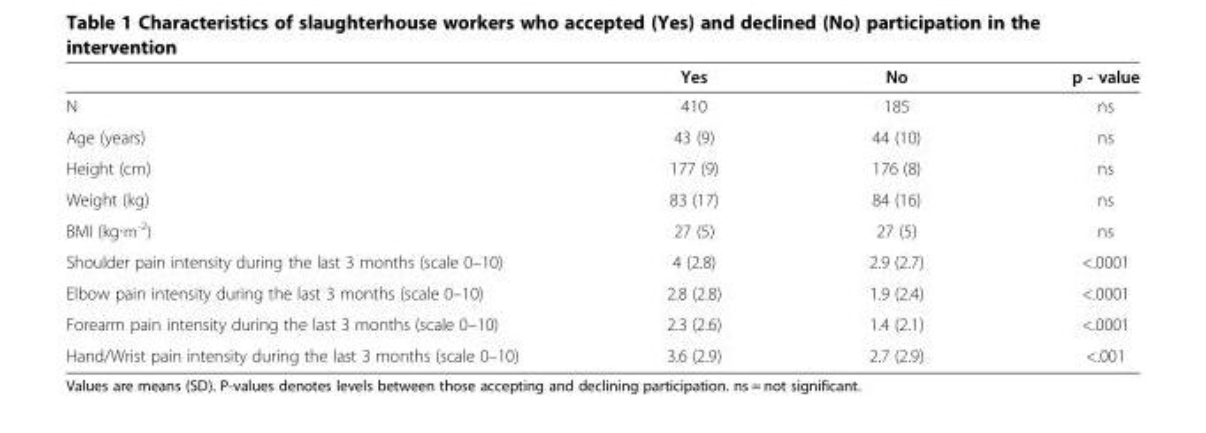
<table><thead><tr><td></td><td>Yes</td><td>No</td><td>p - value</td></tr></thead><tbody><tr><td>N</td><td>410</td><td>185</td><td>ns</td></tr><tr><td>Age (years)</td><td>43 (9)</td><td>44 (10)</td><td>ns</td></tr><tr><td>Height (cm)</td><td>177 (9)</td><td>176 (8)</td><td>ns</td></tr><tr><td>Weight (kg)</td><td>83 (17)</td><td>84 (16)</td><td>ns</td></tr><tr><td>BMI (kg∙m<sup>-2</sup>)</td><td>27 (5)</td><td>27 (5)</td><td>ns</td></tr><tr><td>Shoulder pain intensity during the last 3 months (scale 0–10)</td><td>4 (2.8)</td><td>2.9 (2.7)</td><td>&lt;.0001</td></tr><tr><td>Elbow pain intensity during the last 3 months (scale 0–10)</td><td>2.8 (2.8)</td><td>1.9 (2.4)</td><td>&lt;.0001</td></tr><tr><td>Forearm pain intensity during the last 3 months (scale 0–10)</td><td>2.3 (2.6)</td><td>1.4 (2.1)</td><td>&lt;.0001</td></tr><tr><td>Hand/Wrist pain intensity during the last 3 months (scale 0–10)</td><td>3.6 (2.9)</td><td>2.7 (2.9)</td><td>&lt;.001</td></tr></tbody></table>